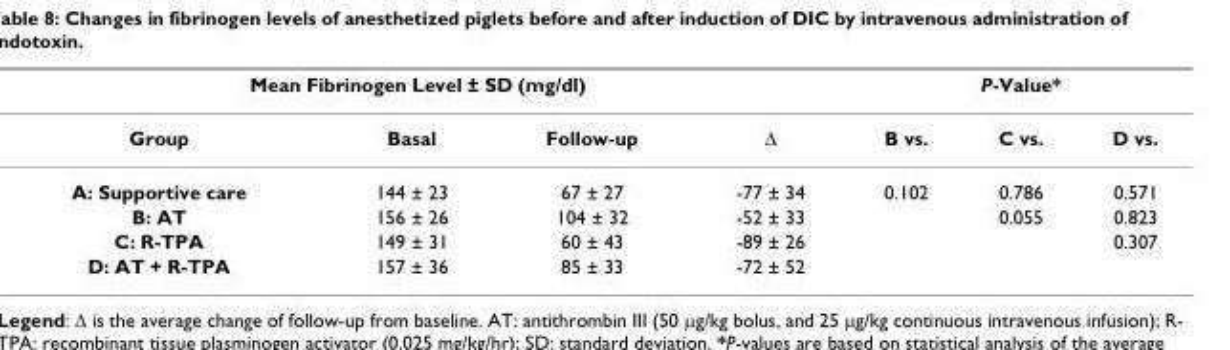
<table><thead><tr><td colspan="4">Mean Fibrinogen Level ± SD (mg/dl)</td><td colspan="3">P-Value*</td></tr><tr><td>Group</td><td>Basal</td><td>Follow-up</td><td>Δ</td><td>B vs.</td><td>C vs.</td><td>D vs.</td></tr></thead><tbody><tr><td>A: Supportive care</td><td>144 ± 23</td><td>67 ± 27</td><td>-77 ± 34</td><td>0.102</td><td>0.786</td><td>0.571</td></tr><tr><td>B: AT</td><td>156 ± 26</td><td>104 ± 32</td><td>-52 ± 33</td><td></td><td>0.055</td><td>0.823</td></tr><tr><td>C: R-TPA</td><td>149 ± 31</td><td>60 ± 43</td><td>-89 ± 26</td><td></td><td></td><td>0.307</td></tr><tr><td>D: AT + R-TPA</td><td>157 ± 36</td><td>85 ± 33</td><td>-72 ± 52</td><td></td><td></td><td></td></tr></tbody></table>